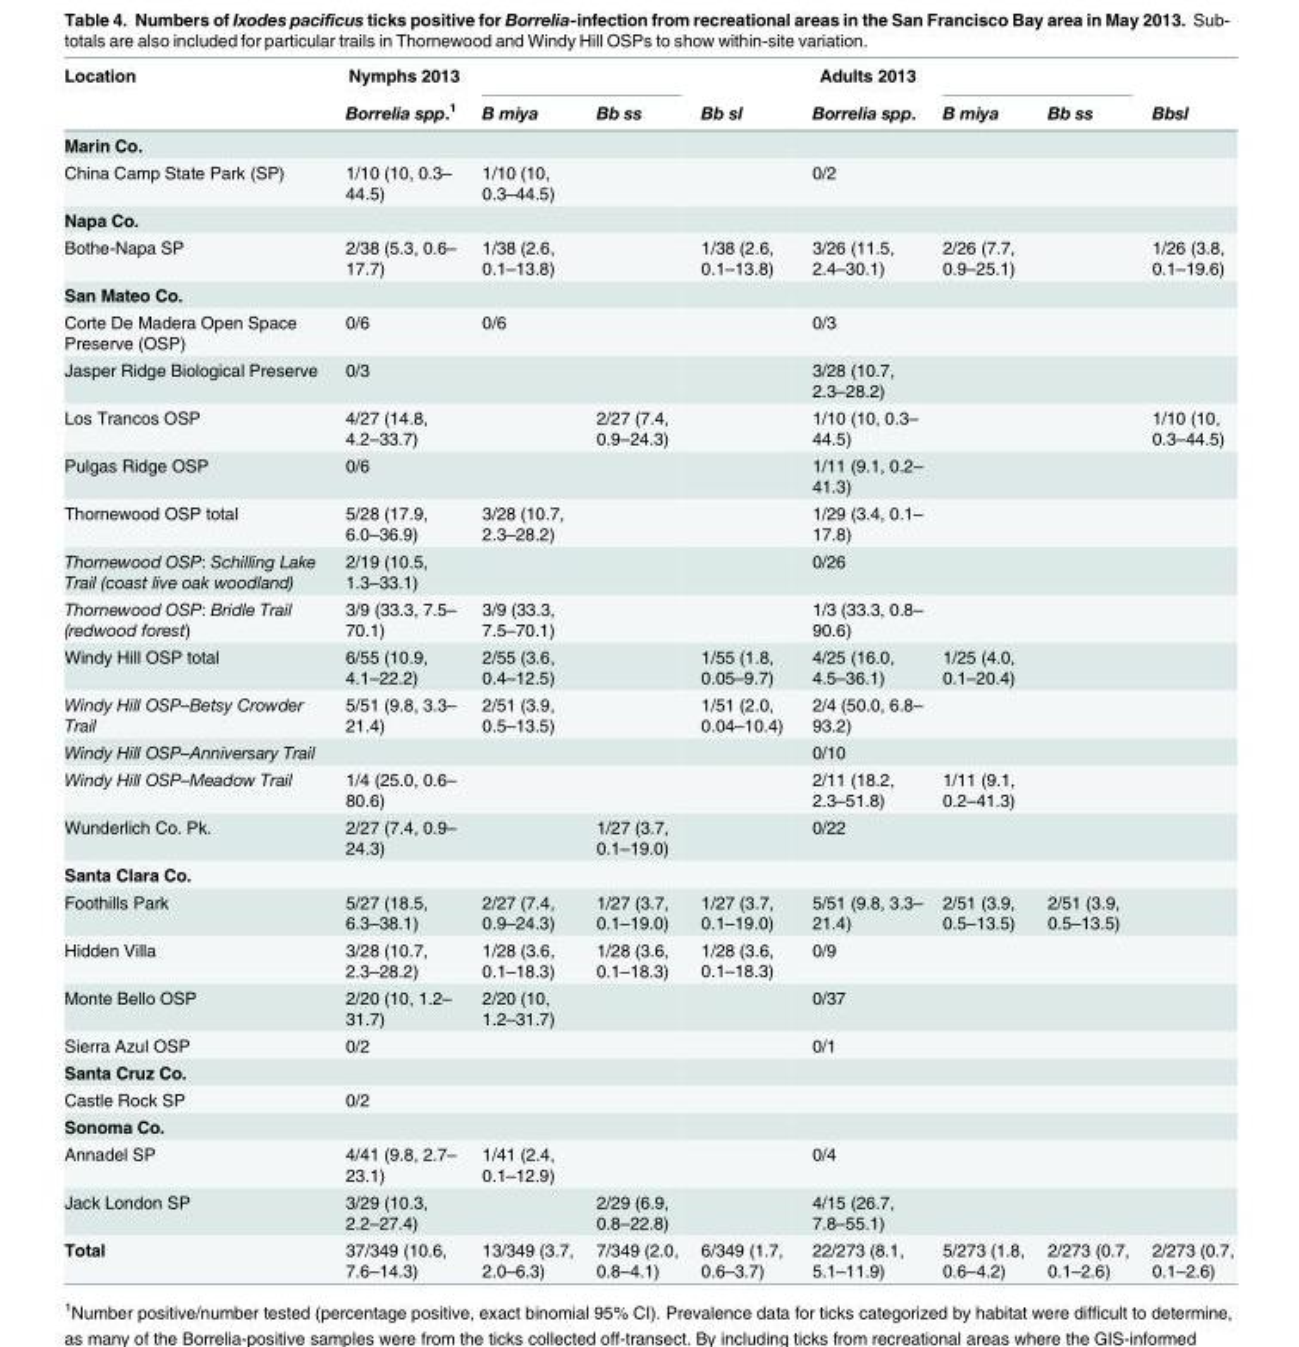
<table><thead><tr><td rowspan="2">Location</td><td rowspan="2">Nymphs 2013 Borrelia spp.<sup>1</sup></td><td rowspan="2">B miya</td><td rowspan="2">Bb ss</td><td rowspan="2">Bb sl</td><td rowspan="2">Adults 2013 Borrelia spp.</td><td rowspan="2">B miya</td><td rowspan="2">Bb ss</td><td rowspan="2">Bbsl</td></tr><tr></tr></thead><tbody><tr><td colspan="9">Marin Co.</td></tr><tr><td>China Camp State Park (SP)</td><td>1/10 (10, 0.3– 44.5)</td><td>1/10 (10, 0.3–44.5)</td><td></td><td></td><td>0/2</td><td></td><td></td><td></td></tr><tr><td colspan="9">Napa Co.</td></tr><tr><td>Bothe-Napa SP</td><td>2/38 (5.3, 0.6– 17.7)</td><td>1/38 (2.6, 0.1–13.8)</td><td></td><td>1/38 (2.6, 0.1–13.8)</td><td>3/26 (11.5, 2.4–30.1)</td><td>2/26 (7.7, 0.9–25.1)</td><td></td><td>1/26 (3.8, 0.1–19.6)</td></tr><tr><td colspan="9">San Mateo Co.</td></tr><tr><td>Corte De Madera Open Space Preserve (OSP)</td><td>0/6</td><td>0/6</td><td></td><td></td><td>0/3</td><td></td><td></td><td></td></tr><tr><td>Jasper Ridge Biological Preserve</td><td>0/3</td><td></td><td></td><td></td><td>3/28 (10.7, 2.3–28.2)</td><td></td><td></td><td></td></tr><tr><td>Los Trancos OSP</td><td>4/27 (14.8, 4.2–33.7)</td><td></td><td>2/27 (7.4, 0.9–24.3)</td><td></td><td>1/10 (10, 0.3– 44.5)</td><td></td><td></td><td>1/10 (10, 0.3–44.5)</td></tr><tr><td>Pulgas Ridge OSP</td><td>0/6</td><td></td><td></td><td></td><td>1/11 (9.1, 0.2– 41.3)</td><td></td><td></td><td></td></tr><tr><td>Thornewood OSP total</td><td>5/28 (17.9, 6.0–36.9)</td><td>3/28 (10.7, 2.3–28.2)</td><td></td><td></td><td>1/29 (3.4, 0.1– 17.8)</td><td></td><td></td><td></td></tr><tr><td>Thornewood OSP: Schilling Lake Trail (coast live oak woodland)</td><td>2/19 (10.5, 1.3–33.1)</td><td></td><td></td><td></td><td>0/26</td><td></td><td></td><td></td></tr><tr><td>Thornewood OSP: Bridle Trail (redwood forest)</td><td>3/9 (33.3, 7.5– 70.1)</td><td>3/9 (33.3, 7.5–70.1)</td><td></td><td></td><td>1/3 (33.3, 0.8– 90.6)</td><td></td><td></td><td></td></tr><tr><td>Windy Hill OSP total</td><td>6/55 (10.9, 4.1–22.2)</td><td>2/55 (3.6, 0.4–12.5)</td><td></td><td>1/55 (1.8, 0.05–9.7)</td><td>4/25 (16.0, 4.5–36.1)</td><td>1/25 (4.0, 0.1–20.4)</td><td></td><td></td></tr><tr><td>Windy Hill OSP–Betsy Crowder Trail</td><td>5/51 (9.8, 3.3– 21.4)</td><td>2/51 (3.9, 0.5–13.5)</td><td></td><td>1/51 (2.0, 0.04–10.4)</td><td>2/4 (50.0, 6.8– 93.2)</td><td></td><td></td><td></td></tr><tr><td>Windy Hill OSP–Anniversary Trail</td><td></td><td></td><td></td><td></td><td>0/10</td><td></td><td></td><td></td></tr><tr><td>Windy Hill OSP–Meadow Trail</td><td>1/4 (25.0, 0.6– 80.6)</td><td></td><td></td><td></td><td>2/11 (18.2, 2.3–51.8)</td><td>1/11 (9.1, 0.2–41.3)</td><td></td><td></td></tr><tr><td>Wunderlich Co. Pk.</td><td>2/27 (7.4, 0.9– 24.3)</td><td></td><td>1/27 (3.7, 0.1–19.0)</td><td></td><td>0/22</td><td></td><td></td><td></td></tr><tr><td colspan="9">Santa Clara Co.</td></tr><tr><td>Foothills Park</td><td>5/27 (18.5, 6.3–38.1)</td><td>2/27 (7.4, 0.9–24.3)</td><td>1/27 (3.7, 0.1–19.0)</td><td>1/27 (3.7, 0.1–19.0)</td><td>5/51 (9.8, 3.3– 21.4)</td><td>2/51 (3.9, 0.5–13.5)</td><td>2/51 (3.9, 0.5–13.5)</td><td></td></tr><tr><td>Hidden Villa</td><td>3/28 (10.7, 2.3–28.2)</td><td>1/28 (3.6, 0.1–18.3)</td><td>1/28 (3.6, 0.1–18.3)</td><td>1/28 (3.6, 0.1–18.3)</td><td>0/9</td><td></td><td></td><td></td></tr><tr><td>Monte Bello OSP</td><td>2/20 (10, 1.2– 31.7)</td><td>2/20 (10, 1.2–31.7)</td><td></td><td></td><td>0/37</td><td></td><td></td><td></td></tr><tr><td>Sierra Azul OSP</td><td>0/2</td><td></td><td></td><td></td><td>0/1</td><td></td><td></td><td></td></tr><tr><td colspan="9">Santa Cruz Co.</td></tr><tr><td>Castle Rock SP</td><td>0/2</td><td></td><td></td><td></td><td></td><td></td><td></td><td></td></tr><tr><td colspan="9">Sonoma Co.</td></tr><tr><td>Annadel SP</td><td>4/41 (9.8, 2.7– 23.1)</td><td>1/41 (2.4, 0.1–12.9)</td><td></td><td></td><td>0/4</td><td></td><td></td><td></td></tr><tr><td>Jack London SP</td><td>3/29 (10.3, 2.2–27.4)</td><td></td><td>2/29 (6.9, 0.8–22.8)</td><td></td><td>4/15 (26.7, 7.8–55.1)</td><td></td><td></td><td></td></tr><tr><td>Total</td><td>37/349 (10.6, 7.6–14.3)</td><td>13/349 (3.7, 2.0–6.3)</td><td>7/349 (2.0, 0.8–4.1)</td><td>6/349 (1.7, 0.6–3.7)</td><td>22/273 (8.1, 5.1–11.9)</td><td>5/273 (1.8, 0.6–4.2)</td><td>2/273 (0.7, 0.1–2.6)</td><td>2/273 (0.7, 0.1–2.6)</td></tr></tbody></table>